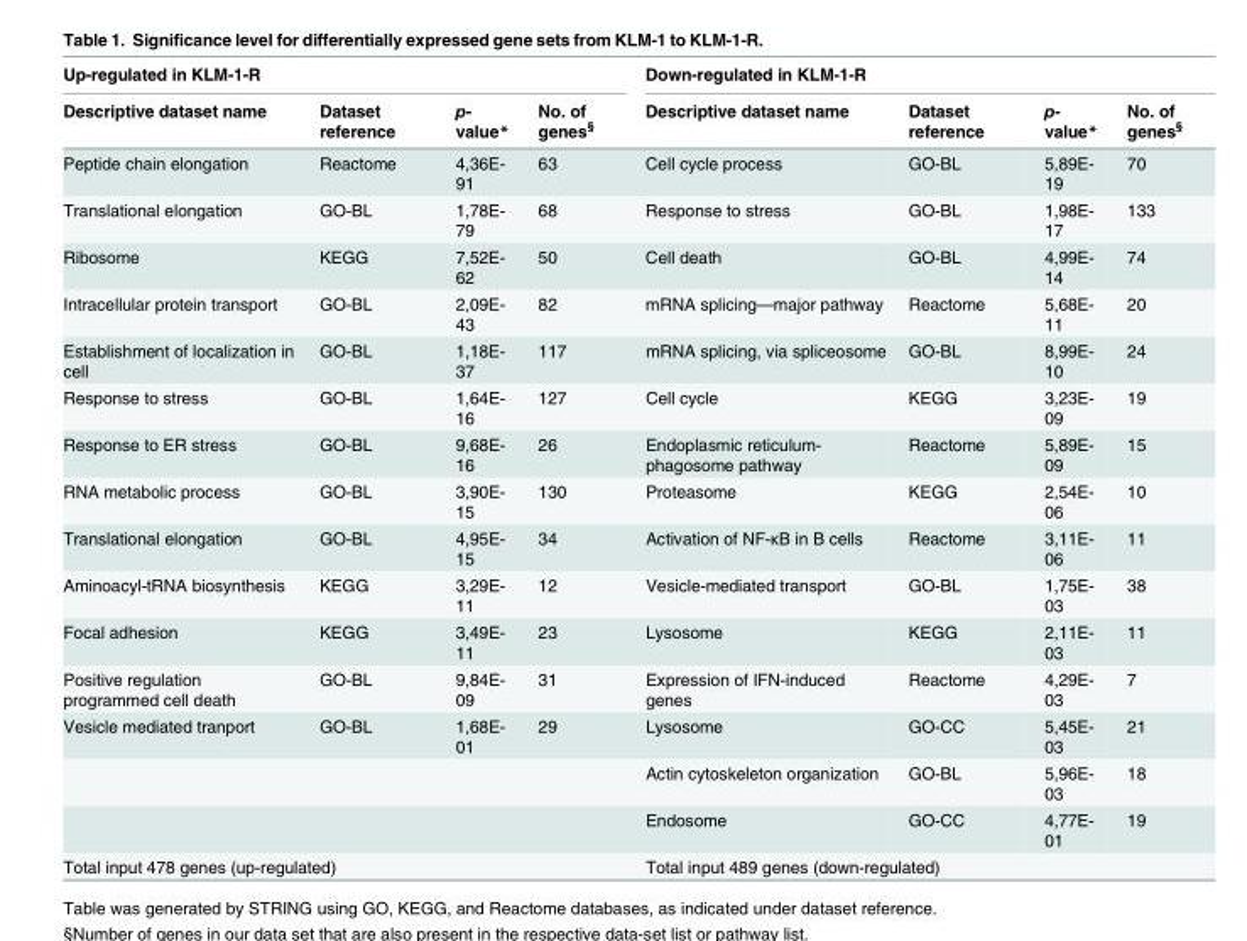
<table><thead><tr><td colspan="4">Up-regulated in KLM-1-R</td><td colspan="4">Down-regulated in KLM-1-R</td></tr><tr><td>Descriptive dataset name</td><td>Dataset reference</td><td>p- value*</td><td>No. of genes<sup>§</sup></td><td>Descriptive dataset name</td><td>Dataset reference</td><td>p- value*</td><td>No. of genes<sup>§</sup></td></tr></thead><tbody><tr><td>Peptide chain elongation</td><td>Reactome</td><td>4,36E- 91</td><td>63</td><td>Cell cycle process</td><td>GO-BL</td><td>5,89E- 19</td><td>70</td></tr><tr><td>Translational elongation</td><td>GO-BL</td><td>1,78E- 79</td><td>68</td><td>Response to stress</td><td>GO-BL</td><td>1,98E- 17</td><td>133</td></tr><tr><td>Ribosome</td><td>KEGG</td><td>7,52E- 62</td><td>50</td><td>Cell death</td><td>GO-BL</td><td>4,99E- 14</td><td>74</td></tr><tr><td>Intracellular protein transport</td><td>GO-BL</td><td>2,09E- 43</td><td>82</td><td>mRNA splicing—major pathway</td><td>Reactome</td><td>5,68E- 11</td><td>20</td></tr><tr><td>Establishment of localization in cell</td><td>GO-BL</td><td>1,18E- 37</td><td>117</td><td>mRNA splicing, via spliceosome</td><td>GO-BL</td><td>8,99E- 10</td><td>24</td></tr><tr><td>Response to stress</td><td>GO-BL</td><td>1,64E- 16</td><td>127</td><td>Cell cycle</td><td>KEGG</td><td>3,23E- 09</td><td>19</td></tr><tr><td>Response to ER stress</td><td>GO-BL</td><td>9,68E- 16</td><td>26</td><td>Endoplasmic reticulum- phagosome pathway</td><td>Reactome</td><td>5,89E- 09</td><td>15</td></tr><tr><td>RNA metabolic process</td><td>GO-BL</td><td>3,90E- 15</td><td>130</td><td>Proteasome</td><td>KEGG</td><td>2,54E- 06</td><td>10</td></tr><tr><td>Translational elongation</td><td>GO-BL</td><td>4,95E- 15</td><td>34</td><td>Activation of NF-κB in B cells</td><td>Reactome</td><td>3,11E- 06</td><td>11</td></tr><tr><td>Aminoacyl-tRNA biosynthesis</td><td>KEGG</td><td>3,29E- 11</td><td>12</td><td>Vesicle-mediated transport</td><td>GO-BL</td><td>1,75E- 03</td><td>38</td></tr><tr><td>Focal adhesion</td><td>KEGG</td><td>3,49E- 11</td><td>23</td><td>Lysosome</td><td>KEGG</td><td>2,11E- 03</td><td>11</td></tr><tr><td>Positive regulation programmed cell death</td><td>GO-BL</td><td>9,84E- 09</td><td>31</td><td>Expression of IFN-induced genes</td><td>Reactome</td><td>4,29E- 03</td><td>7</td></tr><tr><td rowspan="3">Vesicle mediated tranport</td><td>GO-BL</td><td>1,68E- 01</td><td>29</td><td>Lysosome</td><td>GO-CC</td><td>5,45E- 03</td><td>21</td></tr><tr><td></td><td></td><td></td><td>Actin cytoskeleton organization</td><td>GO-BL</td><td>5,96E- 03</td><td>18</td></tr><tr><td></td><td></td><td></td><td>Endosome</td><td>GO-CC</td><td>4,77E- 01</td><td>19</td></tr><tr><td colspan="4">Total input 478 genes (up-regulated)</td><td colspan="4">Total input 489 genes (down-regulated)</td></tr></tbody></table>